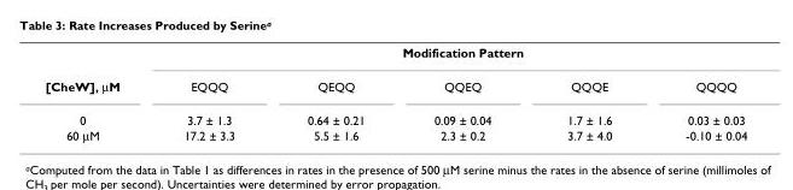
<table><thead><tr><td rowspan="2">[CheW], µM</td><td colspan="5">Modification Pattern</td></tr><tr><td>EQQQ</td><td>QEQQ</td><td>QQEQ</td><td>QQQE</td><td>QQQQ</td></tr></thead><tbody><tr><td>0</td><td>3.7 ± 1.3</td><td>0.64 ± 0.21</td><td>0.09 ± 0.04</td><td>1.7 ± 1.6</td><td>0.03 ± 0.03</td></tr><tr><td>60 µM</td><td>17.2 ± 3.3</td><td>5.5 ± 1.6</td><td>2.3 ± 0.2</td><td>3.7 ± 4.0</td><td>-0.10 ± 0.04</td></tr></tbody></table>